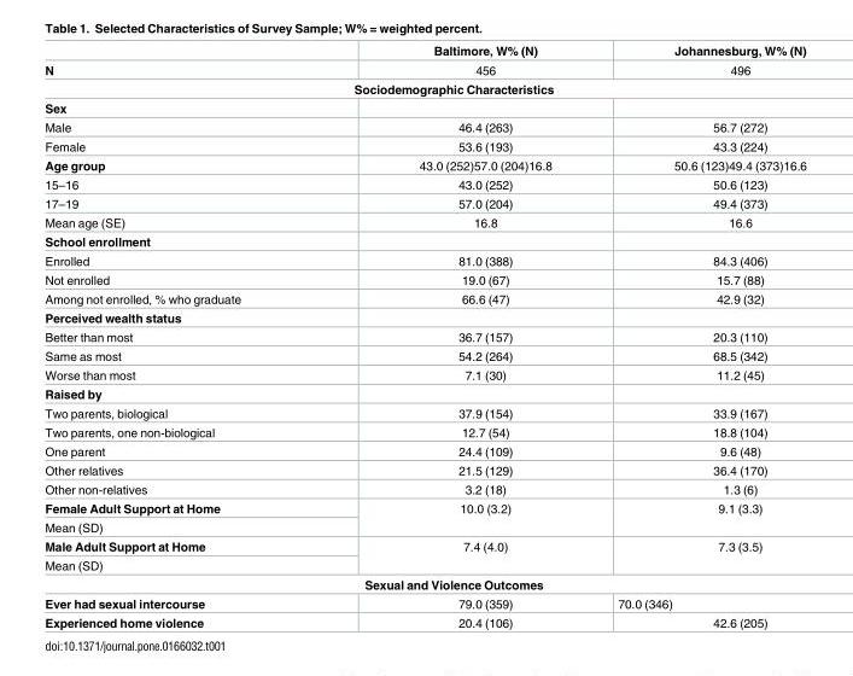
<table><thead><tr><td></td><td>Baltimore, W% (N)</td><td>Johannesburg, W% (N)</td></tr></thead><tbody><tr><td>N</td><td>456</td><td>496</td></tr><tr><td colspan="3">Sociodemographic Characteristics</td></tr><tr><td colspan="3">Sex</td></tr><tr><td>Male</td><td>46.4 (263)</td><td>56.7 (272)</td></tr><tr><td>Female</td><td>53.6 (193)</td><td>43.3 (224)</td></tr><tr><td>Age group</td><td>43.0 (252)57.0 (204)16.8</td><td>50.6 (123)49.4 (373)16.6</td></tr><tr><td>15–16</td><td>43.0 (252)</td><td>50.6 (123)</td></tr><tr><td>17–19</td><td>57.0 (204)</td><td>49.4 (373)</td></tr><tr><td>Mean age (SE)</td><td>16.8</td><td>16.6</td></tr><tr><td colspan="3">School enrollment</td></tr><tr><td>Enrolled</td><td>81.0 (388)</td><td>84.3 (406)</td></tr><tr><td>Not enrolled</td><td>19.0 (67)</td><td>15.7 (88)</td></tr><tr><td>Among not enrolled, % who graduate</td><td>66.6 (47)</td><td>42.9 (32)</td></tr><tr><td colspan="3">Perceived wealth status</td></tr><tr><td>Better than most</td><td>36.7 (157)</td><td>20.3 (110)</td></tr><tr><td>Same as most</td><td>54.2 (264)</td><td>68.5 (342)</td></tr><tr><td>Worse than most</td><td>7.1 (30)</td><td>11.2 (45)</td></tr><tr><td colspan="3">Raised by</td></tr><tr><td>Two parents, biological</td><td>37.9 (154)</td><td>33.9 (167)</td></tr><tr><td>Two parents, one non-biological</td><td>12.7 (54)</td><td>18.8 (104)</td></tr><tr><td>One parent</td><td>24.4 (109)</td><td>9.6 (48)</td></tr><tr><td>Other relatives</td><td>21.5 (129)</td><td>36.4 (170)</td></tr><tr><td>Other non-relatives</td><td>3.2 (18)</td><td>1.3 (6)</td></tr><tr><td>Female Adult Support at Home</td><td rowspan="2">10.0 (3.2)</td><td rowspan="2">9.1 (3.3)</td></tr><tr><td>Mean (SD)</td></tr><tr><td>Male Adult Support at Home</td><td rowspan="2">7.4 (4.0)</td><td rowspan="2">7.3 (3.5)</td></tr><tr><td>Mean (SD)</td></tr><tr><td colspan="3">Sexual and Violence Outcomes</td></tr><tr><td>Ever had sexual intercourse</td><td>79.0 (359)</td><td>70.0 (346)</td></tr><tr><td>Experienced home violence</td><td>20.4 (106)</td><td>42.6 (205)</td></tr></tbody></table>